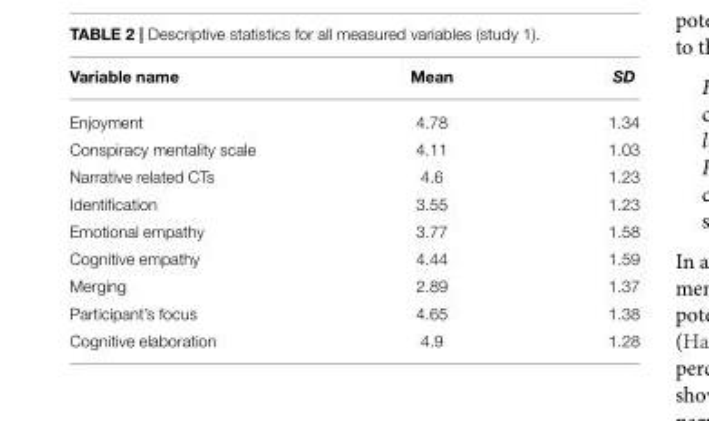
<table><thead><tr><td>Variable name</td><td>Mean</td><td>SD</td></tr></thead><tbody><tr><td>Enjoyment</td><td>4.78</td><td>1.34</td></tr><tr><td>Conspiracy mentality scale</td><td>4.11</td><td>1.03</td></tr><tr><td>Narrative related CTs</td><td>4.6</td><td>1.23</td></tr><tr><td>Identification</td><td>3.55</td><td>1.23</td></tr><tr><td>Emotional empathy</td><td>3.77</td><td>1.58</td></tr><tr><td>Cognitive empathy</td><td>4.44</td><td>1.59</td></tr><tr><td>Merging</td><td>2.89</td><td>1.37</td></tr><tr><td>Participant’s focus</td><td>4.65</td><td>1.38</td></tr><tr><td>Cognitive elaboration</td><td>4.9</td><td>1.28</td></tr></tbody></table>